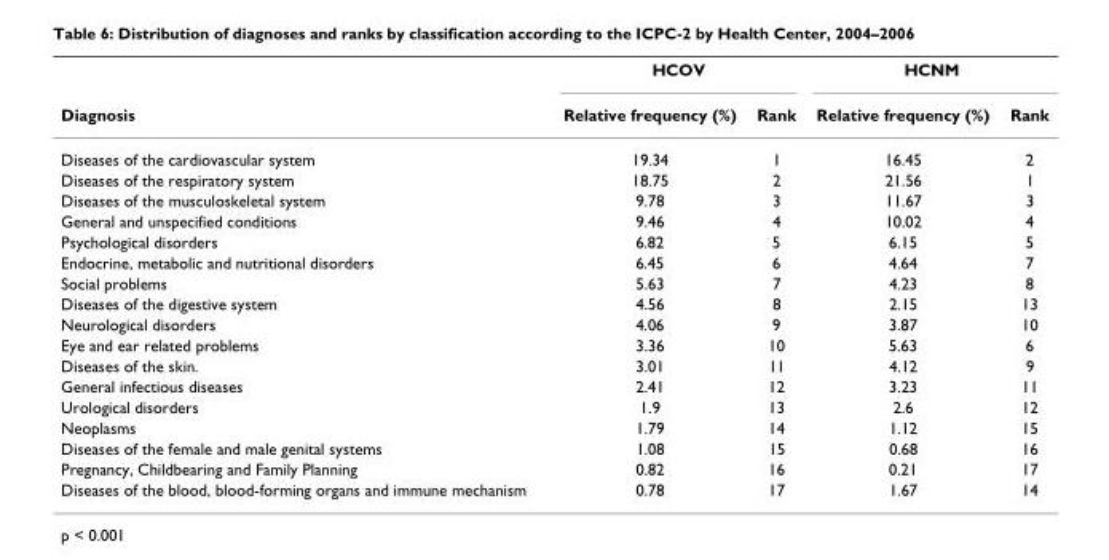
<table><thead><tr><td rowspan="2">Diagnosis</td><td colspan="2">HCOV</td><td colspan="2">HCNM</td></tr><tr><td>Relative frequency (%)</td><td>Rank</td><td>Relative frequency (%)</td><td>Rank</td></tr></thead><tbody><tr><td>Diseases of the cardiovascular system</td><td>19.34</td><td>1</td><td>16.45</td><td>2</td></tr><tr><td>Diseases of the respiratory system</td><td>18.75</td><td>2</td><td>21.56</td><td>1</td></tr><tr><td>Diseases of the musculoskeletal system</td><td>9.78</td><td>3</td><td>11.67</td><td>3</td></tr><tr><td>General and unspecified conditions</td><td>9.46</td><td>4</td><td>10.02</td><td>4</td></tr><tr><td>Psychological disorders</td><td>6.82</td><td>5</td><td>6.15</td><td>5</td></tr><tr><td>Endocrine, metabolic and nutritional disorders</td><td>6.45</td><td>6</td><td>4.64</td><td>7</td></tr><tr><td>Social problems</td><td>5.63</td><td>7</td><td>4.23</td><td>8</td></tr><tr><td>Diseases of the digestive system</td><td>4.56</td><td>8</td><td>2.15</td><td>13</td></tr><tr><td>Neurological disorders</td><td>4.06</td><td>9</td><td>3.87</td><td>10</td></tr><tr><td>Eye and ear related problems</td><td>3.36</td><td>10</td><td>5.63</td><td>6</td></tr><tr><td>Diseases of the skin.</td><td>3.01</td><td>11</td><td>4.12</td><td>9</td></tr><tr><td>General infectious diseases</td><td>2.41</td><td>12</td><td>3.23</td><td>11</td></tr><tr><td>Urological disorders</td><td>1.9</td><td>13</td><td>2.6</td><td>12</td></tr><tr><td>Neoplasms</td><td>1.79</td><td>14</td><td>1.12</td><td>15</td></tr><tr><td>Diseases of the female and male genital systems</td><td>1.08</td><td>15</td><td>0.68</td><td>16</td></tr><tr><td>Pregnancy, Childbearing and Family Planning</td><td>0.82</td><td>16</td><td>0.21</td><td>17</td></tr><tr><td>Diseases of the blood, blood-forming organs and immune mechanism</td><td>0.78</td><td>17</td><td>1.67</td><td>14</td></tr></tbody></table>